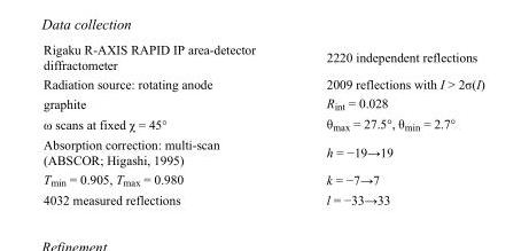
<table><tbody><tr><td>Rigaku R-AXIS RAPID IP area-detector diffractometer</td><td>2220 independent reflections</td></tr><tr><td>Radiation source: rotating anode</td><td>2009 reflections with I &gt; 2σ(I)</td></tr><tr><td>graphite</td><td>R<sub>int</sub> = 0.028</td></tr><tr><td>ω scans at fixed χ = 45°</td><td>θ<sub>max</sub> = 27.5°, θ<sub>min</sub> = 2.7°</td></tr><tr><td>Absorption correction: multi-scan (ABSCOR; Higashi, 1995)</td><td>h = −19→19</td></tr><tr><td>T<sub>min</sub> = 0.905, T<sub>max</sub> = 0.980</td><td>k = −7→7</td></tr><tr><td>4032 measured reflections</td><td>l = −33→33</td></tr></tbody></table>